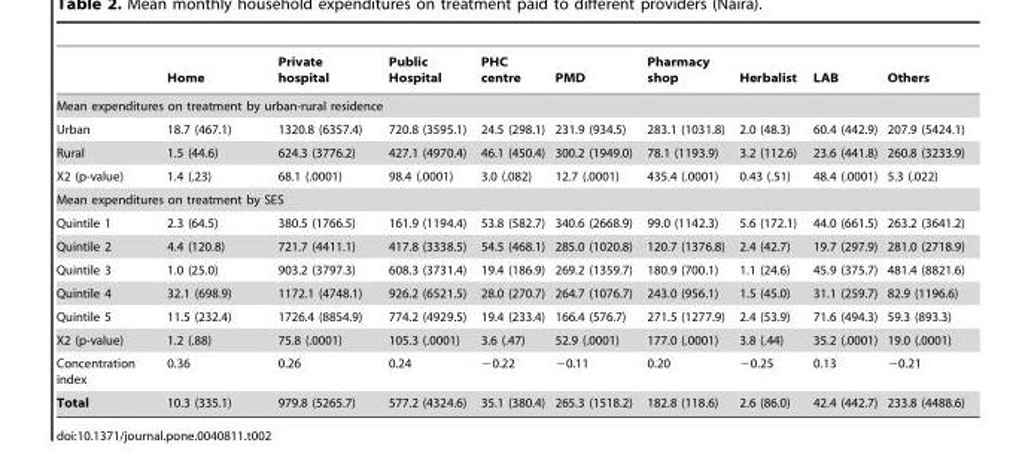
<table><thead><tr><td></td><td>Home</td><td>Private hospital</td><td>Public Hospital</td><td>PHC centre</td><td>PMD</td><td>Pharmacy shop</td><td>Herbalist</td><td>LAB</td><td>Others</td></tr></thead><tbody><tr><td colspan="10">Mean expenditures on treatment by urban-rural residence</td></tr><tr><td>Urban</td><td>18.7 (467.1)</td><td>1320.8 (6357.4)</td><td>720.8 (3595.1)</td><td>24.5 (298.1)</td><td>231.9 (934.5)</td><td>283.1 (1031.8)</td><td>2.0 (48.3)</td><td>60.4 (442.9)</td><td>207.9 (5424.1)</td></tr><tr><td>Rural</td><td>1.5 (44.6)</td><td>624.3 (3776.2)</td><td>427.1 (4970.4)</td><td>46.1 (450.4)</td><td>300.2 (1949.0)</td><td>78.1 (1193.9)</td><td>3.2 (112.6)</td><td>23.6 (441.8)</td><td>260.8 (3233.9)</td></tr><tr><td>X2 (p-value)</td><td>1.4 (.23)</td><td>68.1 (.0001)</td><td>98.4 (.0001)</td><td>3.0 (.082)</td><td>12.7 (.0001)</td><td>435.4 (.0001)</td><td>0.43 (.51)</td><td>48.4 (.0001)</td><td>5.3 (.022)</td></tr><tr><td colspan="10">Mean expenditures on treatment by SES</td></tr><tr><td>Quintile 1</td><td>2.3 (64.5)</td><td>380.5 (1766.5)</td><td>161.9 (1194.4)</td><td>53.8 (582.7)</td><td>340.6 (2668.9)</td><td>99.0 (1142.3)</td><td>5.6 (172.1)</td><td>44.0 (661.5)</td><td>263.2 (3641.2)</td></tr><tr><td>Quintile 2</td><td>4.4 (120.8)</td><td>721.7 (4411.1)</td><td>417.8 (3338.5)</td><td>54.5 (468.1)</td><td>285.0 (1020.8)</td><td>120.7 (1376.8)</td><td>2.4 (42.7)</td><td>19.7 (297.9)</td><td>281.0 (2718.9)</td></tr><tr><td>Quintile 3</td><td>1.0 (25.0)</td><td>903.2 (3797.3)</td><td>608.3 (3731.4)</td><td>19.4 (186.9)</td><td>269.2 (1359.7)</td><td>180.9 (700.1)</td><td>1.1 (24.6)</td><td>45.9 (375.7)</td><td>481.4 (8821.6)</td></tr><tr><td>Quintile 4</td><td>32.1 (698.9)</td><td>1172.1 (4748.1)</td><td>926.2 (6521.5)</td><td>28.0 (270.7)</td><td>264.7 (1076.7)</td><td>243.0 (956.1)</td><td>1.5 (45.0)</td><td>31.1 (259.7)</td><td>82.9 (1196.6)</td></tr><tr><td>Quintile 5</td><td>11.5 (232.4)</td><td>1726.4 (8854.9)</td><td>774.2 (4929.5)</td><td>19.4 (233.4)</td><td>166.4 (576.7)</td><td>271.5 (1277.9)</td><td>2.4 (53.9)</td><td>71.6 (494.3)</td><td>59.3 (893.3)</td></tr><tr><td>X2 (p-value)</td><td>1.2 (.88)</td><td>75.8 (.0001)</td><td>105.3 (.0001)</td><td>3.6 (.47)</td><td>52.9 (.0001)</td><td>177.0 (.0001)</td><td>3.8 (.44)</td><td>35.2 (.0001)</td><td>19.0 (.0001)</td></tr><tr><td>Concentration index</td><td>0.36</td><td>0.26</td><td>0.24</td><td>−0.22</td><td>−0.11</td><td>0.20</td><td>−0.25</td><td>0.13</td><td>−0.21</td></tr><tr><td>Total</td><td>10.3 (335.1)</td><td>979.8 (5265.7)</td><td>577.2 (4324.6)</td><td>35.1 (380.4)</td><td>265.3 (1518.2)</td><td>182.8 (118.6)</td><td>2.6 (86.0)</td><td>42.4 (442.7)</td><td>233.8 (4488.6)</td></tr></tbody></table>